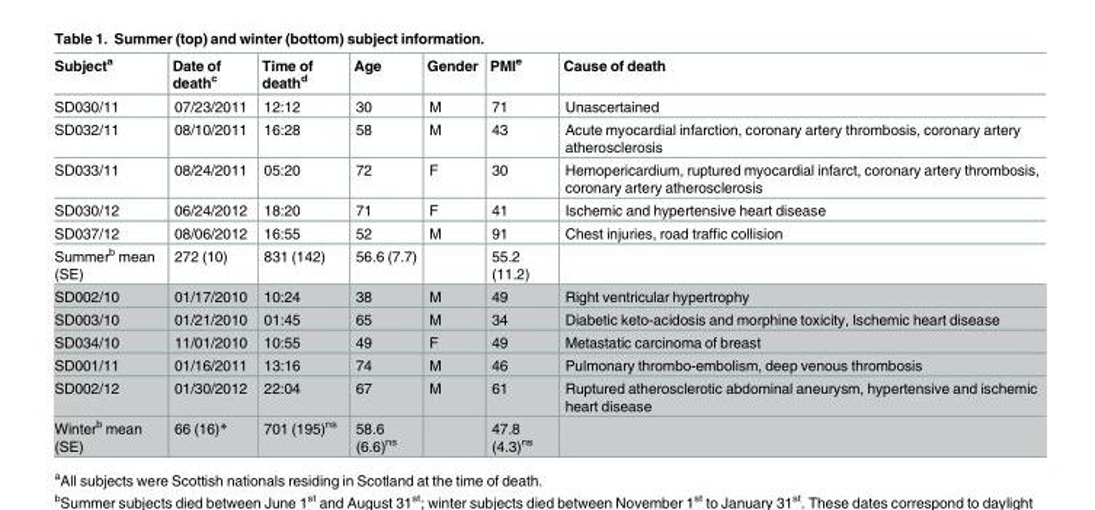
<table><thead><tr><td>Subject<sup>a</sup></td><td>Date of death<sup>c</sup></td><td>Time of death<sup>d</sup></td><td>Age</td><td>Gender</td><td>PMI<sup>e</sup></td><td>Cause of death</td></tr></thead><tbody><tr><td>SD030/11</td><td>07/23/2011</td><td>12:12</td><td>30</td><td>M</td><td>71</td><td>Unascertained</td></tr><tr><td>SD032/11</td><td>08/10/2011</td><td>16:28</td><td>58</td><td>M</td><td>43</td><td>Acute myocardial infarction, coronary artery thrombosis, coronary artery atherosclerosis</td></tr><tr><td>SD033/11</td><td>08/24/2011</td><td>05:20</td><td>72</td><td>F</td><td>30</td><td>Hemopericardium, ruptured myocardial infarct, coronary artery thrombosis, coronary artery atherosclerosis</td></tr><tr><td>SD030/12</td><td>06/24/2012</td><td>18:20</td><td>71</td><td>F</td><td>41</td><td>Ischemic and hypertensive heart disease</td></tr><tr><td>SD037/12</td><td>08/06/2012</td><td>16:55</td><td>52</td><td>M</td><td>91</td><td>Chest injuries, road traffic collision</td></tr><tr><td>Summer<sup>b</sup> mean (SE)</td><td>272 (10)</td><td>831 (142)</td><td>56.6 (7.7)</td><td></td><td>55.2 (11.2)</td><td></td></tr><tr><td>SD002/10</td><td>01/17/2010</td><td>10:24</td><td>38</td><td>M</td><td>49</td><td>Right ventricular hypertrophy</td></tr><tr><td>SD003/10</td><td>01/21/2010</td><td>01:45</td><td>65</td><td>M</td><td>34</td><td>Diabetic keto-acidosis and morphine toxicity, Ischemic heart disease</td></tr><tr><td>SD034/10</td><td>11/01/2010</td><td>10:55</td><td>49</td><td>F</td><td>49</td><td>Metastatic carcinoma of breast</td></tr><tr><td>SD001/11</td><td>01/16/2011</td><td>13:16</td><td>74</td><td>M</td><td>46</td><td>Pulmonary thrombo-embolism, deep venous thrombosis</td></tr><tr><td>SD002/12</td><td>01/30/2012</td><td>22:04</td><td>67</td><td>M</td><td>61</td><td>Ruptured atherosclerotic abdominal aneurysm, hypertensive and ischemic heart disease</td></tr><tr><td>Winter<sup>b</sup> mean (SE)</td><td>66 (16)*</td><td>701 (195)<sup>ns</sup></td><td>58.6 (6.6)<sup>ns</sup></td><td></td><td>47.8 (4.3)<sup>ns</sup></td><td></td></tr></tbody></table>